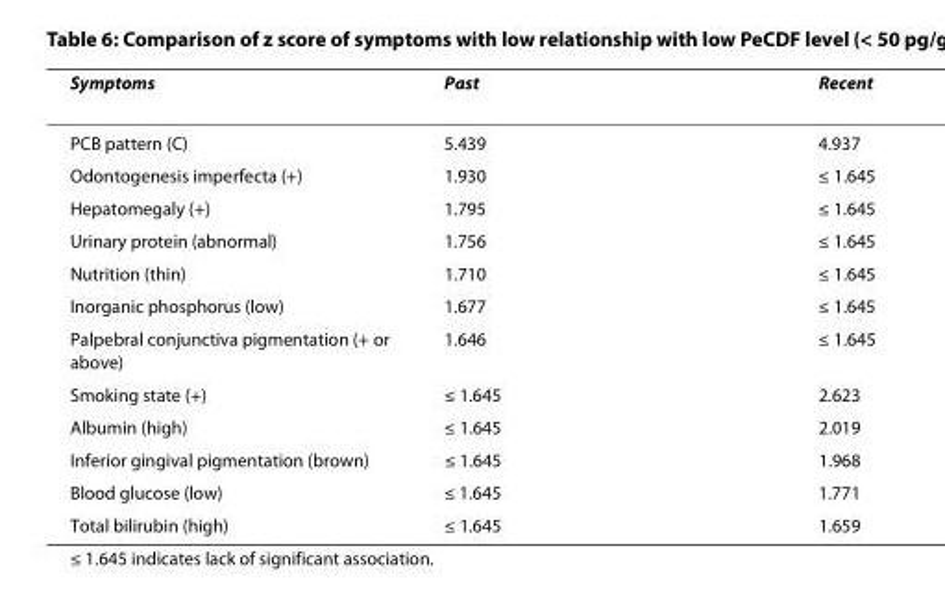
<table><thead><tr><td>Symptoms</td><td>Past</td><td>Recent</td></tr></thead><tbody><tr><td>PCB pattern (C)</td><td>5.439</td><td>4.937</td></tr><tr><td>Odontogenesis imperfecta (+)</td><td>1.930</td><td>≤ 1.645</td></tr><tr><td>Hepatomegaly (+)</td><td>1.795</td><td>≤ 1.645</td></tr><tr><td>Urinary protein (abnormal)</td><td>1.756</td><td>≤ 1.645</td></tr><tr><td>Nutrition (thin)</td><td>1.710</td><td>≤ 1.645</td></tr><tr><td>Inorganic phosphorus (low)</td><td>1.677</td><td>≤ 1.645</td></tr><tr><td>Palpebral conjunctiva pigmentation (+ or above)</td><td>1.646</td><td>≤ 1.645</td></tr><tr><td>Smoking state (+)</td><td>≤ 1.645</td><td>2.623</td></tr><tr><td>Albumin (high)</td><td>≤ 1.645</td><td>2.019</td></tr><tr><td>Inferior gingival pigmentation (brown)</td><td>≤ 1.645</td><td>1.968</td></tr><tr><td>Blood glucose (low)</td><td>≤ 1.645</td><td>1.771</td></tr><tr><td>Total bilirubin (high)</td><td>≤ 1.645</td><td>1.659</td></tr></tbody></table>